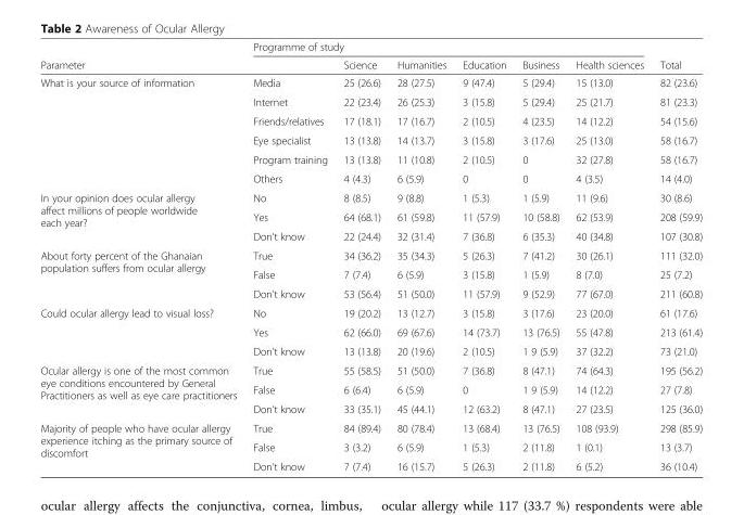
<table><thead><tr><td></td><td colspan="6">Programme of study</td><td rowspan="3">Total 82 (23.6)</td></tr><tr><td colspan="2">Parameter</td><td rowspan="2">Science 25 (26.6)</td><td rowspan="2">Humanities 28 (27.5)</td><td rowspan="2">Education 9 (47.4)</td><td rowspan="2">Business 5 (29.4)</td><td rowspan="2">Health sciences 15 (13.0)</td></tr><tr><td>What is your source of information</td><td>Media</td></tr></thead><tbody><tr><td></td><td>Internet</td><td>22 (23.4)</td><td>26 (25.3)</td><td>3 (15.8)</td><td>5 (29.4)</td><td>25 (21.7)</td><td>81 (23.3)</td></tr><tr><td></td><td>Friends/relatives</td><td>17 (18.1)</td><td>17 (16.7)</td><td>2 (10.5)</td><td>4 (23.5)</td><td>14 (12.2)</td><td>54 (15.6)</td></tr><tr><td></td><td>Eye specialist</td><td>13 (13.8)</td><td>14 (13.7)</td><td>3 (15.8)</td><td>3 (17.6)</td><td>25 (13.0)</td><td>58 (16.7)</td></tr><tr><td></td><td>Program training</td><td>13 (13.8)</td><td>11 (10.8)</td><td>2 (10.5)</td><td>0</td><td>32 (27.8)</td><td>58 (16.7)</td></tr><tr><td></td><td>Others</td><td>4 (4.3)</td><td>6 (5.9)</td><td>0</td><td>0</td><td>4 (3.5)</td><td>14 (4.0)</td></tr><tr><td rowspan="3">In your opinion does ocular allergy affect millions of people worldwide each year?</td><td>No</td><td>8 (8.5)</td><td>9 (8.8)</td><td>1 (5.3)</td><td>1 (5.9)</td><td>11 (9.6)</td><td>30 (8.6)</td></tr><tr><td>Yes</td><td>64 (68.1)</td><td>61 (59.8)</td><td>11 (57.9)</td><td>10 (58.8)</td><td>62 (53.9)</td><td>208 (59.9)</td></tr><tr><td>Don’t know</td><td>22 (24.4)</td><td>32 (31.4)</td><td>7 (36.8)</td><td>6 (35.3)</td><td>40 (34.8)</td><td>107 (30.8)</td></tr><tr><td rowspan="3">About forty percent of the Ghanaian population suffers from ocular allergy</td><td>True</td><td>34 (36.2)</td><td>35 (34.3)</td><td>5 (26.3)</td><td>7 (41.2)</td><td>30 (26.1)</td><td>111 (32.0)</td></tr><tr><td>False</td><td>7 (7.4)</td><td>6 (5.9)</td><td>3 (15.8)</td><td>1 (5.9)</td><td>8 (7.0)</td><td>25 (7.2)</td></tr><tr><td>Don’t know</td><td>53 (56.4)</td><td>51 (50.0)</td><td>11 (57.9)</td><td>9 (52.9)</td><td>77 (67.0)</td><td>211 (60.8)</td></tr><tr><td rowspan="3">Could ocular allergy lead to visual loss?</td><td>No</td><td>19 (20.2)</td><td>13 (12.7)</td><td>3 (15.8)</td><td>3 (17.6)</td><td>23 (20.0)</td><td>61 (17.6)</td></tr><tr><td>Yes</td><td>62 (66.0)</td><td>69 (67.6)</td><td>14 (73.7)</td><td>13 (76.5)</td><td>55 (47.8)</td><td>213 (61.4)</td></tr><tr><td>Don’t know</td><td>13 (13.8)</td><td>20 (19.6)</td><td>2 (10.5)</td><td>1 9 (5.9)</td><td>37 (32.2)</td><td>73 (21.0)</td></tr><tr><td rowspan="3">Ocular allergy is one of the most common eye conditions encountered by General Practitioners as well as eye care practitioners</td><td>True</td><td>55 (58.5)</td><td>51 (50.0)</td><td>7 (36.8)</td><td>8 (47.1)</td><td>74 (64.3)</td><td>195 (56.2)</td></tr><tr><td>False</td><td>6 (6.4)</td><td>6 (5.9)</td><td>0</td><td>1 9 (5.9)</td><td>14 (12.2)</td><td>27 (7.8)</td></tr><tr><td>Don’t know</td><td>33 (35.1)</td><td>45 (44.1)</td><td>12 (63.2)</td><td>8 (47.1)</td><td>27 (23.5)</td><td>125 (36.0)</td></tr><tr><td rowspan="3">Majority of people who have ocular allergy experience itching as the primary source of discomfort</td><td>True</td><td>84 (89.4)</td><td>80 (78.4)</td><td>13 (68.4)</td><td>13 (76.5)</td><td>108 (93.9)</td><td>298 (85.9)</td></tr><tr><td>False</td><td>3 (3.2)</td><td>6 (5.9)</td><td>1 (5.3)</td><td>2 (11.8)</td><td>1 (0.1)</td><td>13 (3.7)</td></tr><tr><td>Don’t know</td><td>7 (7.4)</td><td>16 (15.7)</td><td>5 (26.3)</td><td>2 (11.8)</td><td>6 (5.2)</td><td>36 (10.4)</td></tr></tbody></table>